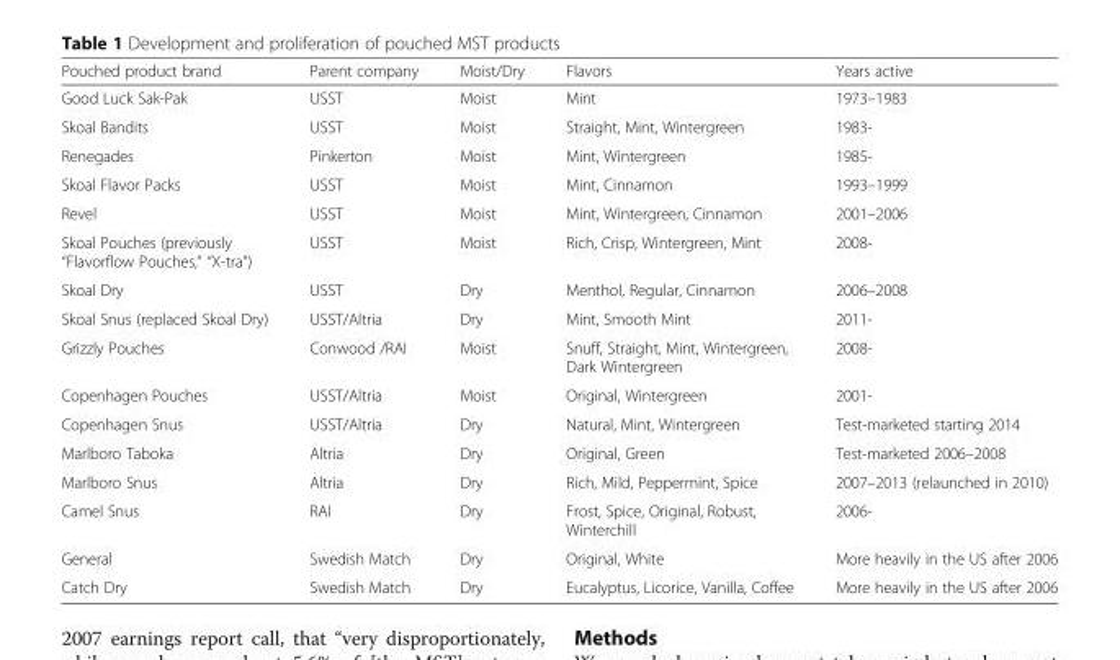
<table><thead><tr><td>Pouched product brand</td><td>Parent company</td><td>Moist/Dry</td><td>Flavors</td><td>Years active</td></tr></thead><tbody><tr><td>Good Luck Sak-Pak</td><td>USST</td><td>Moist</td><td>Mint</td><td>1973–1983</td></tr><tr><td>Skoal Bandits</td><td>USST</td><td>Moist</td><td>Straight, Mint, Wintergreen</td><td>1983-</td></tr><tr><td>Renegades</td><td>Pinkerton</td><td>Moist</td><td>Mint, Wintergreen</td><td>1985-</td></tr><tr><td>Skoal Flavor Packs</td><td>USST</td><td>Moist</td><td>Mint, Cinnamon</td><td>1993–1999</td></tr><tr><td>Revel</td><td>USST</td><td>Moist</td><td>Mint, Wintergreen, Cinnamon</td><td>2001–2006</td></tr><tr><td>Skoal Pouches (previously “Flavorflow Pouches,” “X-tra”)</td><td>USST</td><td>Moist</td><td>Rich, Crisp, Wintergreen, Mint</td><td>2008-</td></tr><tr><td>Skoal Dry</td><td>USST</td><td>Dry</td><td>Menthol, Regular, Cinnamon</td><td>2006–2008</td></tr><tr><td>Skoal Snus (replaced Skoal Dry)</td><td>USST/Altria</td><td>Dry</td><td>Mint, Smooth Mint</td><td>2011-</td></tr><tr><td>Grizzly Pouches</td><td>Conwood /RAI</td><td>Moist</td><td>Snuff, Straight, Mint, Wintergreen, Dark Wintergreen</td><td>2008-</td></tr><tr><td>Copenhagen Pouches</td><td>USST/Altria</td><td>Moist</td><td>Original, Wintergreen</td><td>2001-</td></tr><tr><td>Copenhagen Snus</td><td>USST/Altria</td><td>Dry</td><td>Natural, Mint, Wintergreen</td><td>Test-marketed starting 2014</td></tr><tr><td>Marlboro Taboka</td><td>Altria</td><td>Dry</td><td>Original, Green</td><td>Test-marketed 2006–2008</td></tr><tr><td>Marlboro Snus</td><td>Altria</td><td>Dry</td><td>Rich, Mild, Peppermint, Spice</td><td>2007–2013 (relaunched in 2010)</td></tr><tr><td>Camel Snus</td><td>RAI</td><td>Dry</td><td>Frost, Spice, Original, Robust, Winterchill</td><td>2006-</td></tr><tr><td>General</td><td>Swedish Match</td><td>Dry</td><td>Original, White</td><td>More heavily in the US after 2006</td></tr><tr><td>Catch Dry</td><td>Swedish Match</td><td>Dry</td><td>Eucalyptus, Licorice, Vanilla, Coffee</td><td>More heavily in the US after 2006</td></tr></tbody></table>